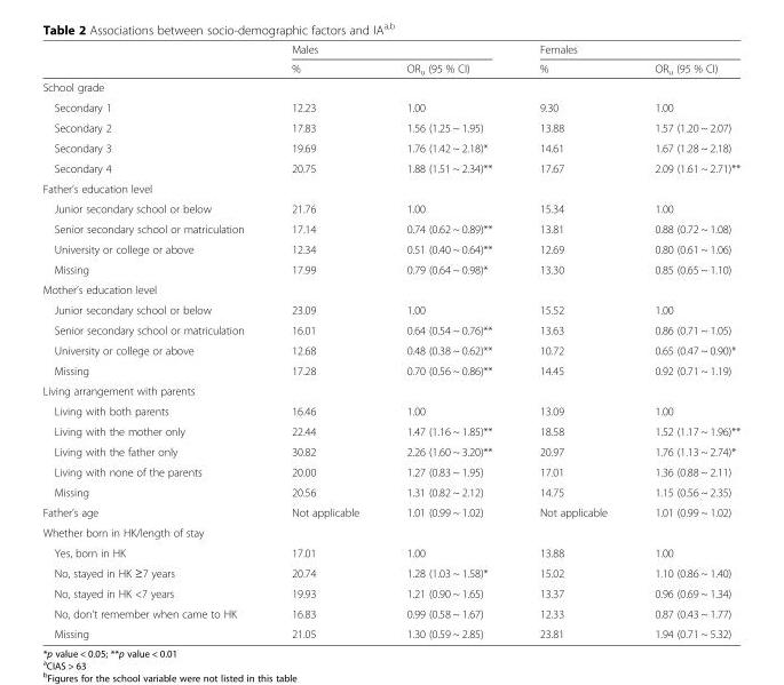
<table><thead><tr><td rowspan="2"></td><td colspan="2">Males</td><td colspan="2">Females</td></tr><tr><td>%</td><td>OR<sub>u</sub> (95 % CI)</td><td>%</td><td>OR<sub>u</sub> (95 % CI)</td></tr></thead><tbody><tr><td colspan="5">School grade</td></tr><tr><td>Secondary 1</td><td>12.23</td><td>1.00</td><td>9.30</td><td>1.00</td></tr><tr><td>Secondary 2</td><td>17.83</td><td>1.56 (1.25 ~ 1.95)</td><td>13.88</td><td>1.57 (1.20 ~ 2.07)</td></tr><tr><td>Secondary 3</td><td>19.69</td><td>1.76 (1.42 ~ 2.18)*</td><td>14.61</td><td>1.67 (1.28 ~ 2.18)</td></tr><tr><td>Secondary 4</td><td>20.75</td><td>1.88 (1.51 ~ 2.34)**</td><td>17.67</td><td>2.09 (1.61 ~ 2.71)**</td></tr><tr><td colspan="5">Father’s education level</td></tr><tr><td>Junior secondary school or below</td><td>21.76</td><td>1.00</td><td>15.34</td><td>1.00</td></tr><tr><td>Senior secondary school or matriculation</td><td>17.14</td><td>0.74 (0.62 ~ 0.89)**</td><td>13.81</td><td>0.88 (0.72 ~ 1.08)</td></tr><tr><td>University or college or above</td><td>12.34</td><td>0.51 (0.40 ~ 0.64)**</td><td>12.69</td><td>0.80 (0.61 ~ 1.06)</td></tr><tr><td>Missing</td><td>17.99</td><td>0.79 (0.64 ~ 0.98)*</td><td>13.30</td><td>0.85 (0.65 ~ 1.10)</td></tr><tr><td colspan="5">Mother’s education level</td></tr><tr><td>Junior secondary school or below</td><td>23.09</td><td>1.00</td><td>15.52</td><td>1.00</td></tr><tr><td>Senior secondary school or matriculation</td><td>16.01</td><td>0.64 (0.54 ~ 0.76)**</td><td>13.63</td><td>0.86 (0.71 ~ 1.05)</td></tr><tr><td>University or college or above</td><td>12.68</td><td>0.48 (0.38 ~ 0.62)**</td><td>10.72</td><td>0.65 (0.47 ~ 0.90)*</td></tr><tr><td>Missing</td><td>17.28</td><td>0.70 (0.56 ~ 0.86)**</td><td>14.45</td><td>0.92 (0.71 ~ 1.19)</td></tr><tr><td colspan="5">Living arrangement with parents</td></tr><tr><td>Living with both parents</td><td>16.46</td><td>1.00</td><td>13.09</td><td>1.00</td></tr><tr><td>Living with the mother only</td><td>22.44</td><td>1.47 (1.16 ~ 1.85)**</td><td>18.58</td><td>1.52 (1.17 ~ 1.96)**</td></tr><tr><td>Living with the father only</td><td>30.82</td><td>2.26 (1.60 ~ 3.20)**</td><td>20.97</td><td>1.76 (1.13 ~ 2.74)*</td></tr><tr><td>Living with none of the parents</td><td>20.00</td><td>1.27 (0.83 ~ 1.95)</td><td>17.01</td><td>1.36 (0.88 ~ 2.11)</td></tr><tr><td>Missing</td><td>20.56</td><td>1.31 (0.82 ~ 2.12)</td><td>14.75</td><td>1.15 (0.56 ~ 2.35)</td></tr><tr><td>Father’s age</td><td>Not applicable</td><td>1.01 (0.99 ~ 1.02)</td><td>Not applicable</td><td>1.01 (0.99 ~ 1.02)</td></tr><tr><td colspan="5">Whether born in HK/length of stay</td></tr><tr><td>Yes, born in HK</td><td>17.01</td><td>1.00</td><td>13.88</td><td>1.00</td></tr><tr><td>No, stayed in HK ≥7 years</td><td>20.74</td><td>1.28 (1.03 ~ 1.58)*</td><td>15.02</td><td>1.10 (0.86 ~ 1.40)</td></tr><tr><td>No, stayed in HK &lt;7 years</td><td>19.93</td><td>1.21 (0.90 ~ 1.65)</td><td>13.37</td><td>0.96 (0.69 ~ 1.34)</td></tr><tr><td>No, don’t remember when came to HK</td><td>16.83</td><td>0.99 (0.58 ~ 1.67)</td><td>12.33</td><td>0.87 (0.43 ~ 1.77)</td></tr><tr><td>Missing</td><td>21.05</td><td>1.30 (0.59 ~ 2.85)</td><td>23.81</td><td>1.94 (0.71 ~ 5.32)</td></tr></tbody></table>